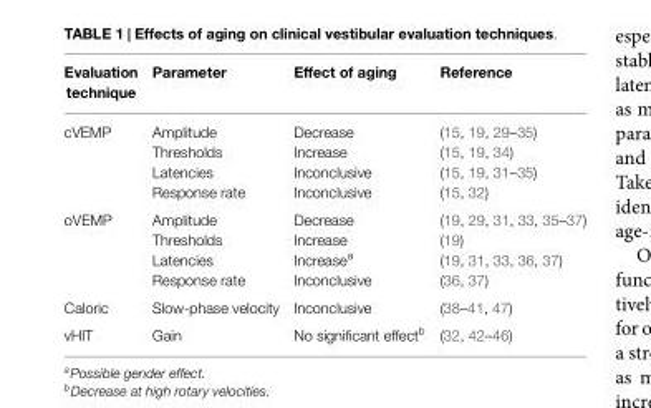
<table><thead><tr><td>Evaluation technique</td><td>Parameter</td><td>Effect of aging</td><td>Reference</td></tr></thead><tbody><tr><td rowspan="4">cVEMP</td><td>Amplitude</td><td>Decrease</td><td>(15, 19, 29–35)</td></tr><tr><td>Thresholds</td><td>Increase</td><td>(15, 19, 34)</td></tr><tr><td>Latencies</td><td>Inconclusive</td><td>(15, 19, 31–35)</td></tr><tr><td>Response rate</td><td>Inconclusive</td><td>(15, 32)</td></tr><tr><td rowspan="4">oVEMP</td><td>Amplitude</td><td>Decrease</td><td>(19, 29, 31, 33, 35–37)</td></tr><tr><td>Thresholds</td><td>Increase</td><td>(19)</td></tr><tr><td>Latencies</td><td>Increase<sup>a</sup></td><td>(19, 31, 33, 36, 37)</td></tr><tr><td>Response rate</td><td>Inconclusive</td><td>(36, 37)</td></tr><tr><td>Caloric</td><td>Slow-phase velocity</td><td>Inconclusive</td><td>(38–41, 47)</td></tr><tr><td>vHIT</td><td>Gain</td><td>No significant effect<sup>b</sup></td><td>(32, 42–46)</td></tr></tbody></table>